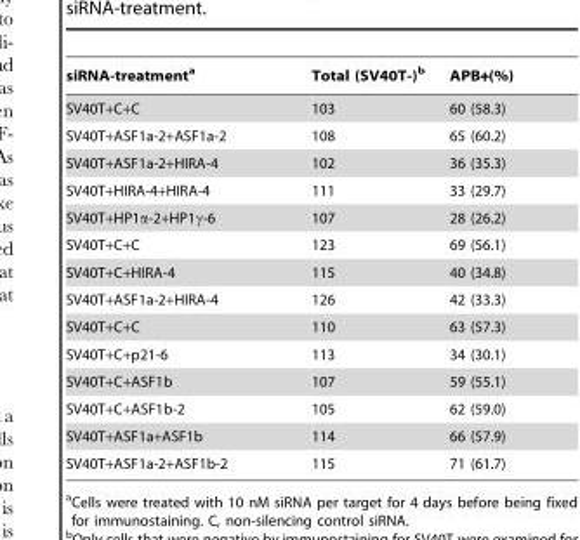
<table><thead><tr><td>siRNA-treatment<sup>a</sup></td><td>Total (SV40T-)<sup>b</sup></td><td>APB+(%)</td></tr></thead><tbody><tr><td>SV40T+C+C</td><td>103</td><td>60 (58.3)</td></tr><tr><td>SV40T+ASF1a-2+ASF1a-2</td><td>108</td><td>65 (60.2)</td></tr><tr><td>SV40T+ASF1a-2+HIRA-4</td><td>102</td><td>36 (35.3)</td></tr><tr><td>SV40T+HIRA-4+HIRA-4</td><td>111</td><td>33 (29.7)</td></tr><tr><td>SV40T+HP1α-2+HP1γ-6</td><td>107</td><td>28 (26.2)</td></tr><tr><td>SV40T+C+C</td><td>123</td><td>69 (56.1)</td></tr><tr><td>SV40T+C+HIRA-4</td><td>115</td><td>40 (34.8)</td></tr><tr><td>SV40T+ASF1a-2+HIRA-4</td><td>126</td><td>42 (33.3)</td></tr><tr><td>SV40T+C+C</td><td>110</td><td>63 (57.3)</td></tr><tr><td>SV40T+C+p21-6</td><td>113</td><td>34 (30.1)</td></tr><tr><td>SV40T+C+ASF1b</td><td>107</td><td>59 (55.1)</td></tr><tr><td>SV40T+C+ASF1b-2</td><td>105</td><td>62 (59.0)</td></tr><tr><td>SV40T+ASF1a+ASF1b</td><td>114</td><td>66 (57.9)</td></tr><tr><td>SV40T+ASF1a-2+ASF1b-2</td><td>115</td><td>71 (61.7)</td></tr></tbody></table>